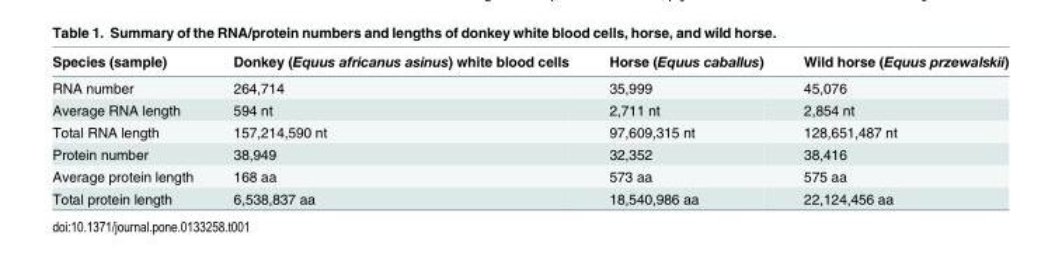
<table><thead><tr><td>Species (sample)</td><td>Donkey (Equus africanus asinus) white blood cells</td><td>Horse (Equus caballus)</td><td>Wild horse (Equus przewalskii)</td></tr></thead><tbody><tr><td>RNA number</td><td>264,714</td><td>35,999</td><td>45,076</td></tr><tr><td>Average RNA length</td><td>594 nt</td><td>2,711 nt</td><td>2,854 nt</td></tr><tr><td>Total RNA length</td><td>157,214,590 nt</td><td>97,609,315 nt</td><td>128,651,487 nt</td></tr><tr><td>Protein number</td><td>38,949</td><td>32,352</td><td>38,416</td></tr><tr><td>Average protein length</td><td>168 aa</td><td>573 aa</td><td>575 aa</td></tr><tr><td>Total protein length</td><td>6,538,837 aa</td><td>18,540,986 aa</td><td>22,124,456 aa</td></tr></tbody></table>